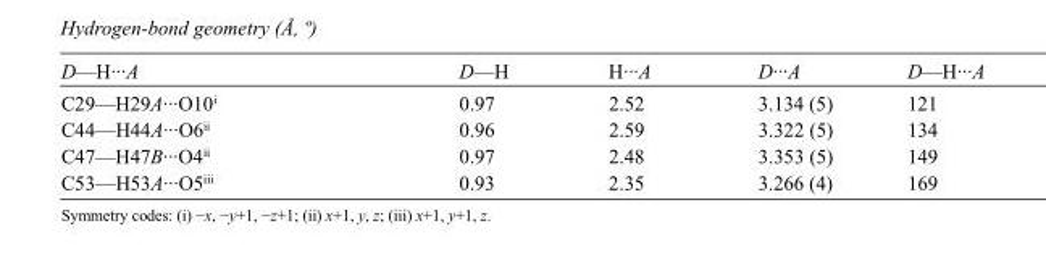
<table><tbody><tr><td>D—H···A</td><td>D—H</td><td>H···A</td><td>D···A</td><td>D—H···A</td></tr><tr><td>C29—H29A···O10<sup>i</sup></td><td>0.97</td><td>2.52</td><td>3.134 (5)</td><td>121</td></tr><tr><td>C44—H44A···O6<sup>ii</sup></td><td>0.96</td><td>2.59</td><td>3.322 (5)</td><td>134</td></tr><tr><td>C47—H47B···O4<sup>ii</sup></td><td>0.97</td><td>2.48</td><td>3.353 (5)</td><td>149</td></tr><tr><td>C53—H53A···O5<sup>iii</sup></td><td>0.93</td><td>2.35</td><td>3.266 (4)</td><td>169</td></tr></tbody></table>